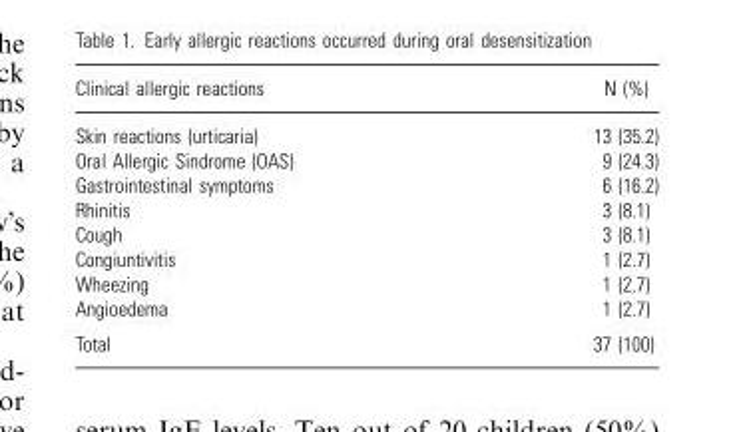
<table><thead><tr><td>Clinical allergic reactions</td><td>N (%)</td></tr></thead><tbody><tr><td>Skin reactions (urticaria)</td><td>13 (35.2)</td></tr><tr><td>Oral Allergic Sindrome (OAS)</td><td>9 (24.3)</td></tr><tr><td>Gastrointestinal symptoms</td><td>6 (16.2)</td></tr><tr><td>Rhinitis</td><td>3 (8.1)</td></tr><tr><td>Cough</td><td>3 (8.1)</td></tr><tr><td>Congiuntivitis</td><td>1 (2.7)</td></tr><tr><td>Wheezing</td><td>1 (2.7)</td></tr><tr><td>Angioedema</td><td>1 (2.7)</td></tr><tr><td>Total</td><td>37 (100)</td></tr></tbody></table>